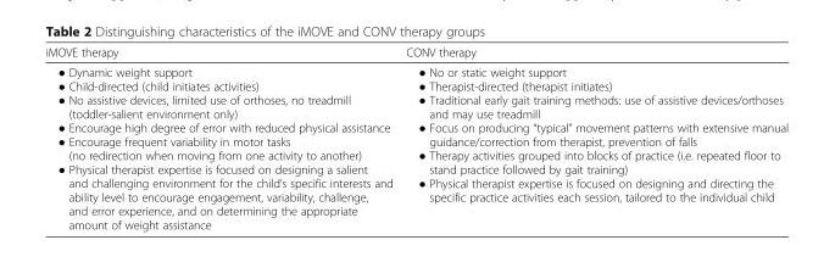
<table><thead><tr><td>iMOVE therapy</td><td>CONV therapy</td></tr></thead><tbody><tr><td>● Dynamic weight support ● Child-directed (child initiates activities) ● No assistive devices, limited use of orthoses, no treadmill (toddler-salient environment only) ● Encourage high degree of error with reduced physical assistance ● Encourage frequent variability in motor tasks (no redirection when moving from one activity to another) ● Physical therapist expertise is focused on designing a salient and challenging environment for the child’s specific interests and ability level to encourage engagement, variability, challenge, and error experience, and on determining the appropriate amount of weight assistance</td><td>● No or static weight support ● Therapist-directed (therapist initiates) ● Traditional early gait training methods: use of assistive devices/orthoses and may use treadmill ● Focus on producing “typical” movement patterns with extensive manual guidance/correction from therapist, prevention of falls ● Therapy activities grouped into blocks of practice (i.e. repeated floor to stand practice followed by gait training) ● Physical therapist expertise is focused on designing and directing the specific practice activities each session, tailored to the individual child</td></tr></tbody></table>